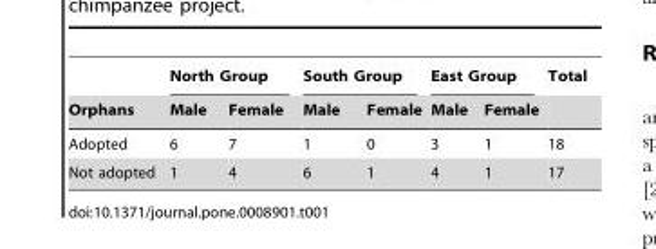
<table><thead><tr><td rowspan="2">Orphans</td><td colspan="2">North Group</td><td colspan="2">South Group</td><td colspan="2">East Group</td><td rowspan="2">Total</td></tr><tr><td>Male</td><td>Female</td><td>Male</td><td>Female</td><td>Male</td><td>Female</td></tr></thead><tbody><tr><td>Adopted</td><td>6</td><td>7</td><td>1</td><td>0</td><td>3</td><td>1</td><td>18</td></tr><tr><td>Not adopted</td><td>1</td><td>4</td><td>6</td><td>1</td><td>4</td><td>1</td><td>17</td></tr></tbody></table>